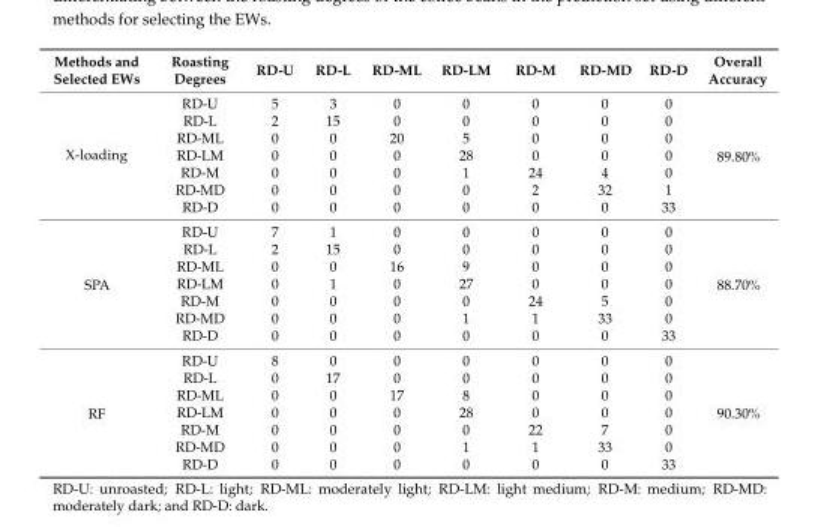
<table><thead><tr><td>Methods and Selected EWs</td><td>Roasting Degrees</td><td>RD-U</td><td>RD-L</td><td>RD-ML</td><td>RD-LM</td><td>RD-M</td><td>RD-MD</td><td>RD-D</td><td>Overall Accuracy</td></tr></thead><tbody><tr><td rowspan="7">X-loading</td><td>RD-U</td><td>5</td><td>3</td><td>0</td><td>0</td><td>0</td><td>0</td><td>0</td><td rowspan="7">89.80%</td></tr><tr><td>RD-L</td><td>2</td><td>15</td><td>0</td><td>0</td><td>0</td><td>0</td><td>0</td></tr><tr><td>RD-ML</td><td>0</td><td>0</td><td>20</td><td>5</td><td>0</td><td>0</td><td>0</td></tr><tr><td>RD-LM</td><td>0</td><td>0</td><td>0</td><td>28</td><td>0</td><td>0</td><td>0</td></tr><tr><td>RD-M</td><td>0</td><td>0</td><td>0</td><td>1</td><td>24</td><td>4</td><td>0</td></tr><tr><td>RD-MD</td><td>0</td><td>0</td><td>0</td><td>0</td><td>2</td><td>32</td><td>1</td></tr><tr><td>RD-D</td><td>0</td><td>0</td><td>0</td><td>0</td><td>0</td><td>0</td><td>33</td></tr><tr><td rowspan="7">SPA</td><td>RD-U</td><td>7</td><td>1</td><td>0</td><td>0</td><td>0</td><td>0</td><td>0</td><td rowspan="7">88.70%</td></tr><tr><td>RD-L</td><td>2</td><td>15</td><td>0</td><td>0</td><td>0</td><td>0</td><td>0</td></tr><tr><td>RD-ML</td><td>0</td><td>0</td><td>16</td><td>9</td><td>0</td><td>0</td><td>0</td></tr><tr><td>RD-LM</td><td>0</td><td>1</td><td>0</td><td>27</td><td>0</td><td>0</td><td>0</td></tr><tr><td>RD-M</td><td>0</td><td>0</td><td>0</td><td>0</td><td>24</td><td>5</td><td>0</td></tr><tr><td>RD-MD</td><td>0</td><td>0</td><td>0</td><td>1</td><td>1</td><td>33</td><td>0</td></tr><tr><td>RD-D</td><td>0</td><td>0</td><td>0</td><td>0</td><td>0</td><td>0</td><td>33</td></tr><tr><td rowspan="7">RF</td><td>RD-U</td><td>8</td><td>0</td><td>0</td><td>0</td><td>0</td><td>0</td><td>0</td><td rowspan="7">90.30%</td></tr><tr><td>RD-L</td><td>0</td><td>17</td><td>0</td><td>0</td><td>0</td><td>0</td><td>0</td></tr><tr><td>RD-ML</td><td>0</td><td>0</td><td>17</td><td>8</td><td>0</td><td>0</td><td>0</td></tr><tr><td>RD-LM</td><td>0</td><td>0</td><td>0</td><td>28</td><td>0</td><td>0</td><td>0</td></tr><tr><td>RD-M</td><td>0</td><td>0</td><td>0</td><td>0</td><td>22</td><td>7</td><td>0</td></tr><tr><td>RD-MD</td><td>0</td><td>0</td><td>0</td><td>1</td><td>1</td><td>33</td><td>0</td></tr><tr><td>RD-D</td><td>0</td><td>0</td><td>0</td><td>0</td><td>0</td><td>0</td><td>33</td></tr></tbody></table>